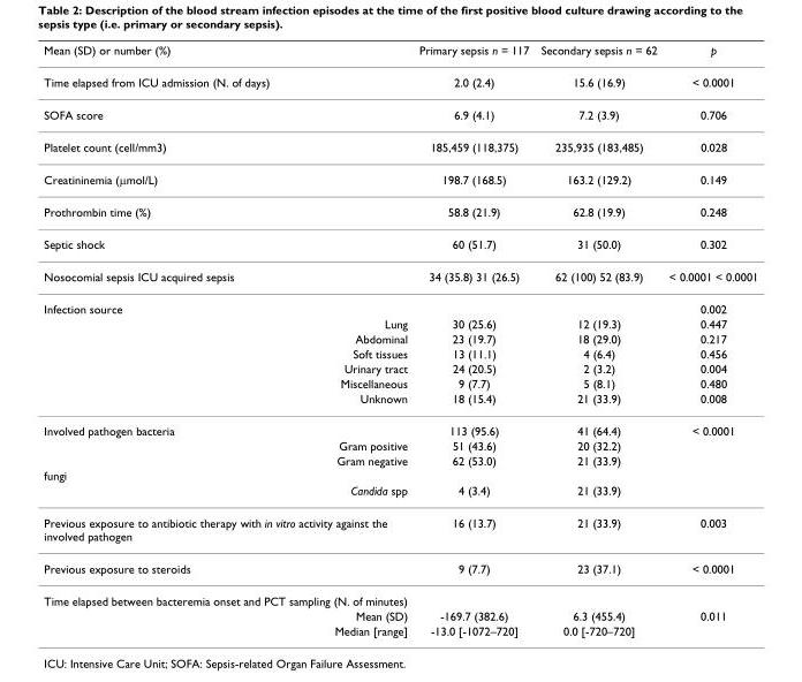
<table><thead><tr><td>Mean (SD) or number (%)</td><td>Primary sepsis n = 117</td><td>Secondary sepsis n = 62</td><td>p</td></tr></thead><tbody><tr><td>Time elapsed from ICU admission (N. of days)</td><td>2.0 (2.4)</td><td>15.6 (16.9)</td><td>&lt; 0.0001</td></tr><tr><td>SOFA score</td><td>6.9 (4.1)</td><td>7.2 (3.9)</td><td>0.706</td></tr><tr><td>Platelet count (cell/mm3)</td><td>185,459 (118,375)</td><td>235,935 (183,485)</td><td>0.028</td></tr><tr><td>Creatininemia (μmol/L)</td><td>198.7 (168.5)</td><td>163.2 (129.2)</td><td>0.149</td></tr><tr><td>Prothrombin time (%)</td><td>58.8 (21.9)</td><td>62.8 (19.9)</td><td>0.248</td></tr><tr><td>Septic shock</td><td>60 (51.7)</td><td>31 (50.0)</td><td>0.302</td></tr><tr><td>Nosocomial sepsis ICU acquired sepsis</td><td>34 (35.8) 31 (26.5)</td><td>62 (100) 52 (83.9)</td><td>&lt; 0.0001 &lt; 0.0001</td></tr><tr><td>Infection source</td><td></td><td></td><td>0.002</td></tr><tr><td>Lung</td><td>30 (25.6)</td><td>12 (19.3)</td><td>0.447</td></tr><tr><td>Abdominal</td><td>23 (19.7)</td><td>18 (29.0)</td><td>0.217</td></tr><tr><td>Soft tissues</td><td>13 (11.1)</td><td>4 (6.4)</td><td>0.456</td></tr><tr><td>Urinary tract</td><td>24 (20.5)</td><td>2 (3.2)</td><td>0.004</td></tr><tr><td>Miscellaneous</td><td>9 (7.7)</td><td>5 (8.1)</td><td>0.480</td></tr><tr><td>Unknown</td><td>18 (15.4)</td><td>21 (33.9)</td><td>0.008</td></tr><tr><td>Involved pathogen bacteria</td><td>113 (95.6)</td><td>41 (64.4)</td><td>&lt; 0.0001</td></tr><tr><td>Gram positive</td><td>51 (43.6)</td><td>20 (32.2)</td><td></td></tr><tr><td>Gram negative</td><td>62 (53.0)</td><td>21 (33.9)</td><td></td></tr><tr><td colspan="4">fungi</td></tr><tr><td>Candida spp</td><td>4 (3.4)</td><td>21 (33.9)</td><td></td></tr><tr><td>Previous exposure to antibiotic therapy with in vitro activity against the involved pathogen</td><td>16 (13.7)</td><td>21 (33.9)</td><td>0.003</td></tr><tr><td>Previous exposure to steroids</td><td>9 (7.7)</td><td>23 (37.1)</td><td>&lt; 0.0001</td></tr><tr><td colspan="4">Time elapsed between bacteremia onset and PCT sampling (N. of minutes)</td></tr><tr><td>Mean (SD)</td><td>-169.7 (382.6)</td><td>6.3 (455.4)</td><td>0.011</td></tr><tr><td>Median [range]</td><td>-13.0 [-1072–720]</td><td>0.0 [-720–720]</td><td></td></tr></tbody></table>